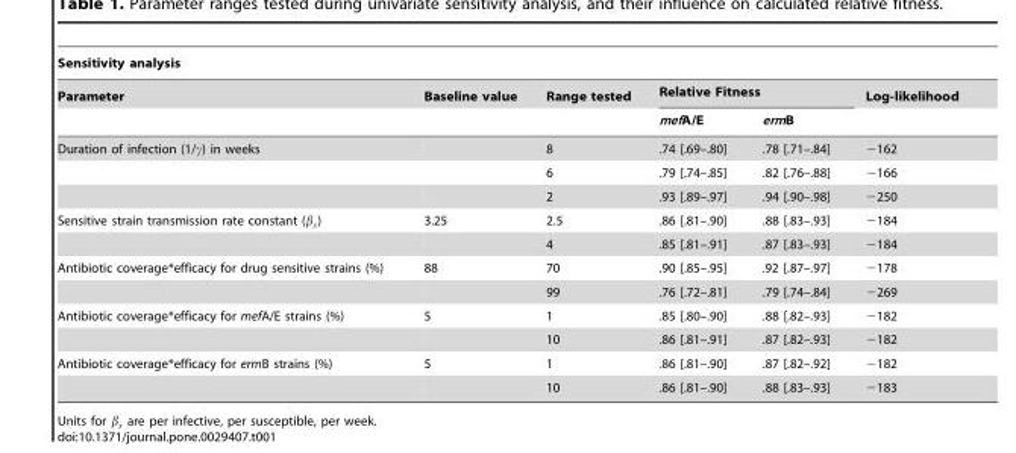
<table><thead><tr><td colspan="6">Sensitivity analysis</td></tr><tr><td rowspan="2">Parameter</td><td rowspan="2">Baseline value</td><td rowspan="2">Range tested</td><td colspan="2">Relative Fitness</td><td rowspan="2">Log-likelihood</td></tr><tr><td>mefA/E</td><td>ermB</td></tr></thead><tbody><tr><td rowspan="3">Duration of infection (1/c) in weeks</td><td></td><td>8</td><td>.74 [.69–.80]</td><td>.78 [.71–.84]</td><td>−162</td></tr><tr><td></td><td>6</td><td>.79 [.74–.85]</td><td>.82 [.76–.88]</td><td>−166</td></tr><tr><td></td><td>2</td><td>.93 [.89–.97]</td><td>.94 [.90–.98]</td><td>−250</td></tr><tr><td rowspan="2">Sensitive strain transmission rate constant (bs)</td><td>3.25</td><td>2.5</td><td>.86 [.81–.90]</td><td>.88 [.83–.93]</td><td>−184</td></tr><tr><td></td><td>4</td><td>.85 [.81–.91]</td><td>.87 [.83–.93]</td><td>−184</td></tr><tr><td rowspan="2">Antibiotic coverage*efficacy for drug sensitive strains (%)</td><td>88</td><td>70</td><td>.90 [.85–.95]</td><td>.92 [.87–.97]</td><td>−178</td></tr><tr><td></td><td>99</td><td>.76 [.72–.81]</td><td>.79 [.74–.84]</td><td>−269</td></tr><tr><td rowspan="2">Antibiotic coverage*efficacy for mefA/E strains (%)</td><td>5</td><td>1</td><td>.85 [.80–.90]</td><td>.88 [.82–.93]</td><td>−182</td></tr><tr><td></td><td>10</td><td>.86 [.81–.91]</td><td>.87 [.82–.93]</td><td>−182</td></tr><tr><td rowspan="2">Antibiotic coverage*efficacy for ermB strains (%)</td><td>5</td><td>1</td><td>.86 [.81–.90]</td><td>.87 [.82–.92]</td><td>−182</td></tr><tr><td></td><td>10</td><td>.86 [.81–.90]</td><td>.88 [.83–.93]</td><td>−183</td></tr></tbody></table>